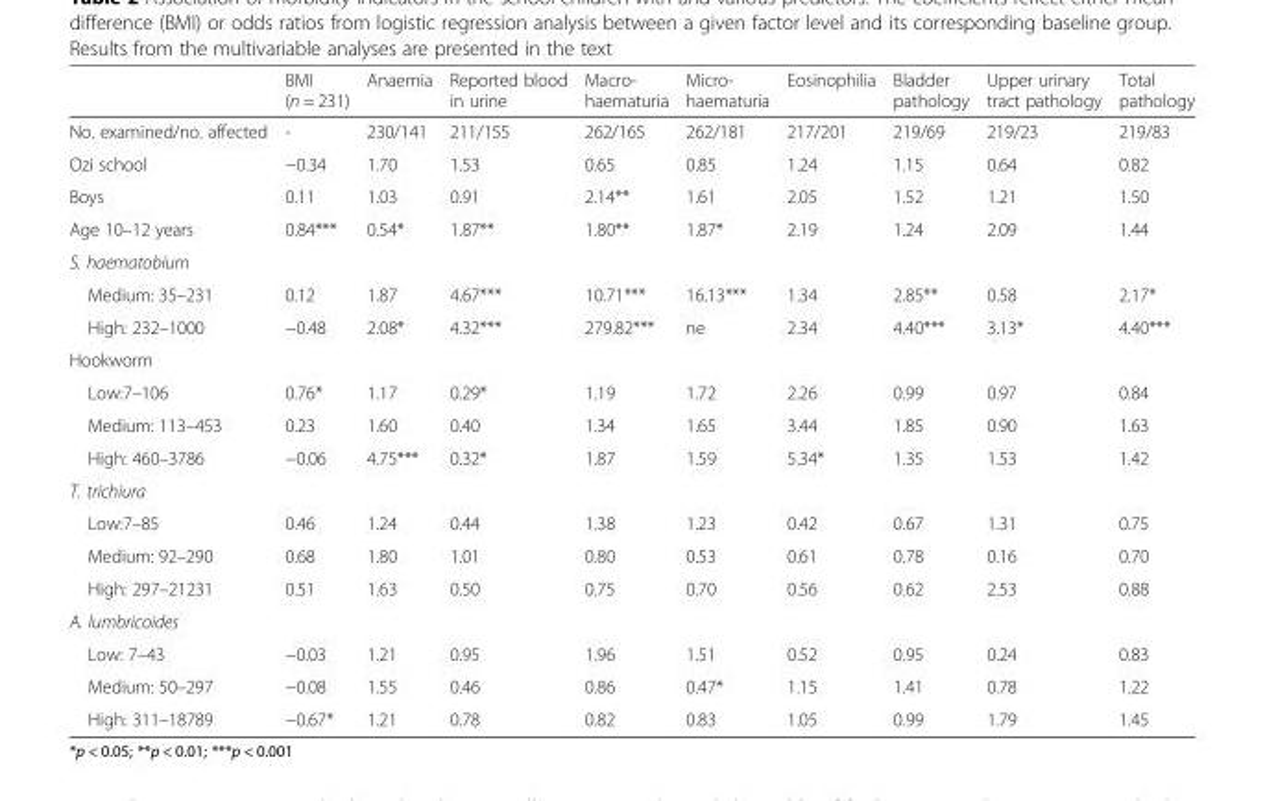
<table><thead><tr><td></td><td>BMI (n = 231)</td><td>Anaemia</td><td>Reported blood in urine</td><td>Macro- haematuria</td><td>Micro- haematuria</td><td>Eosinophilia</td><td>Bladder pathology</td><td>Upper urinary tract pathology</td><td>Total pathology</td></tr></thead><tbody><tr><td>No. examined/no. affected</td><td>-</td><td>230/141</td><td>211/155</td><td>262/165</td><td>262/181</td><td>217/201</td><td>219/69</td><td>219/23</td><td>219/83</td></tr><tr><td>Ozi school</td><td>−0.34</td><td>1.70</td><td>1.53</td><td>0.65</td><td>0.85</td><td>1.24</td><td>1.15</td><td>0.64</td><td>0.82</td></tr><tr><td>Boys</td><td>0.11</td><td>1.03</td><td>0.91</td><td>2.14**</td><td>1.61</td><td>2.05</td><td>1.52</td><td>1.21</td><td>1.50</td></tr><tr><td>Age 10–12 years</td><td>0.84***</td><td>0.54*</td><td>1.87**</td><td>1.80**</td><td>1.87*</td><td>2.19</td><td>1.24</td><td>2.09</td><td>1.44</td></tr><tr><td colspan="10">S. haematobium</td></tr><tr><td>Medium: 35–231</td><td>0.12</td><td>1.87</td><td>4.67***</td><td>10.71***</td><td>16.13***</td><td>1.34</td><td>2.85**</td><td>0.58</td><td>2.17*</td></tr><tr><td>High: 232–1000</td><td>−0.48</td><td>2.08*</td><td>4.32***</td><td>279.82***</td><td>ne</td><td>2.34</td><td>4.40***</td><td>3.13*</td><td>4.40***</td></tr><tr><td colspan="10">Hookworm</td></tr><tr><td>Low:7–106</td><td>0.76*</td><td>1.17</td><td>0.29*</td><td>1.19</td><td>1.72</td><td>2.26</td><td>0.99</td><td>0.97</td><td>0.84</td></tr><tr><td>Medium: 113–453</td><td>0.23</td><td>1.60</td><td>0.40</td><td>1.34</td><td>1.65</td><td>3.44</td><td>1.85</td><td>0.90</td><td>1.63</td></tr><tr><td>High: 460–3786</td><td>−0.06</td><td>4.75***</td><td>0.32*</td><td>1.87</td><td>1.59</td><td>5.34*</td><td>1.35</td><td>1.53</td><td>1.42</td></tr><tr><td colspan="10">T. trichiura</td></tr><tr><td>Low:7–85</td><td>0.46</td><td>1.24</td><td>0.44</td><td>1.38</td><td>1.23</td><td>0.42</td><td>0.67</td><td>1.31</td><td>0.75</td></tr><tr><td>Medium: 92–290</td><td>0.68</td><td>1.80</td><td>1.01</td><td>0.80</td><td>0.53</td><td>0.61</td><td>0.78</td><td>0.16</td><td>0.70</td></tr><tr><td>High: 297–21231</td><td>0.51</td><td>1.63</td><td>0.50</td><td>0.75</td><td>0.70</td><td>0.56</td><td>0.62</td><td>2.53</td><td>0.88</td></tr><tr><td colspan="10">A. lumbricoides</td></tr><tr><td>Low: 7–43</td><td>−0.03</td><td>1.21</td><td>0.95</td><td>1.96</td><td>1.51</td><td>0.52</td><td>0.95</td><td>0.24</td><td>0.83</td></tr><tr><td>Medium: 50–297</td><td>−0.08</td><td>1.55</td><td>0.46</td><td>0.86</td><td>0.47*</td><td>1.15</td><td>1.41</td><td>0.78</td><td>1.22</td></tr><tr><td>High: 311–18789</td><td>−0.67*</td><td>1.21</td><td>0.78</td><td>0.82</td><td>0.83</td><td>1.05</td><td>0.99</td><td>1.79</td><td>1.45</td></tr></tbody></table>